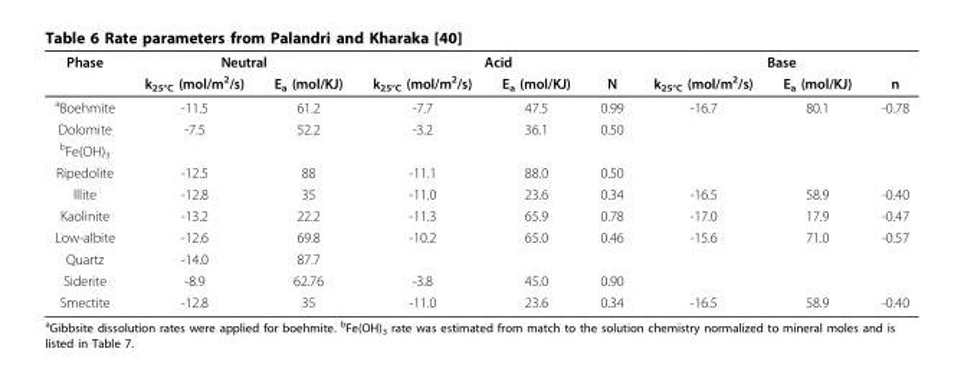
<table><thead><tr><td rowspan="2">Phase</td><td colspan="2">Neutral</td><td colspan="3">Acid</td><td colspan="3">Base</td></tr><tr><td>k<sub>25°C</sub> (mol/m<sup>2</sup>/s)</td><td>E<sub>a</sub> (mol/KJ)</td><td>k<sub>25°C</sub> (mol/m<sup>2</sup>/s)</td><td>E<sub>a</sub> (mol/KJ)</td><td>N</td><td>k<sub>25°C</sub> (mol/m<sup>2</sup>/s)</td><td>E<sub>a</sub> (mol/KJ)</td><td>n</td></tr></thead><tbody><tr><td><sup>a</sup>Boehmite</td><td>-11.5</td><td>61.2</td><td>-7.7</td><td>47.5</td><td>0.99</td><td>-16.7</td><td>80.1</td><td>-0.78</td></tr><tr><td>Dolomite</td><td>-7.5</td><td>52.2</td><td>-3.2</td><td>36.1</td><td>0.50</td><td></td><td></td><td></td></tr><tr><td colspan="9"><sup>b</sup>Fe(OH)<sub>3</sub></td></tr><tr><td>Ripedolite</td><td>-12.5</td><td>88</td><td>-11.1</td><td>88.0</td><td>0.50</td><td></td><td></td><td></td></tr><tr><td>Illite</td><td>-12.8</td><td>35</td><td>-11.0</td><td>23.6</td><td>0.34</td><td>-16.5</td><td>58.9</td><td>-0.40</td></tr><tr><td>Kaolinite</td><td>-13.2</td><td>22.2</td><td>-11.3</td><td>65.9</td><td>0.78</td><td>-17.0</td><td>17.9</td><td>-0.47</td></tr><tr><td>Low-albite</td><td>-12.6</td><td>69.8</td><td>-10.2</td><td>65.0</td><td>0.46</td><td>-15.6</td><td>71.0</td><td>-0.57</td></tr><tr><td>Quartz</td><td>-14.0</td><td>87.7</td><td></td><td></td><td></td><td></td><td></td><td></td></tr><tr><td>Siderite</td><td>-8.9</td><td>62.76</td><td>-3.8</td><td>45.0</td><td>0.90</td><td></td><td></td><td></td></tr><tr><td>Smectite</td><td>-12.8</td><td>35</td><td>-11.0</td><td>23.6</td><td>0.34</td><td>-16.5</td><td>58.9</td><td>-0.40</td></tr></tbody></table>